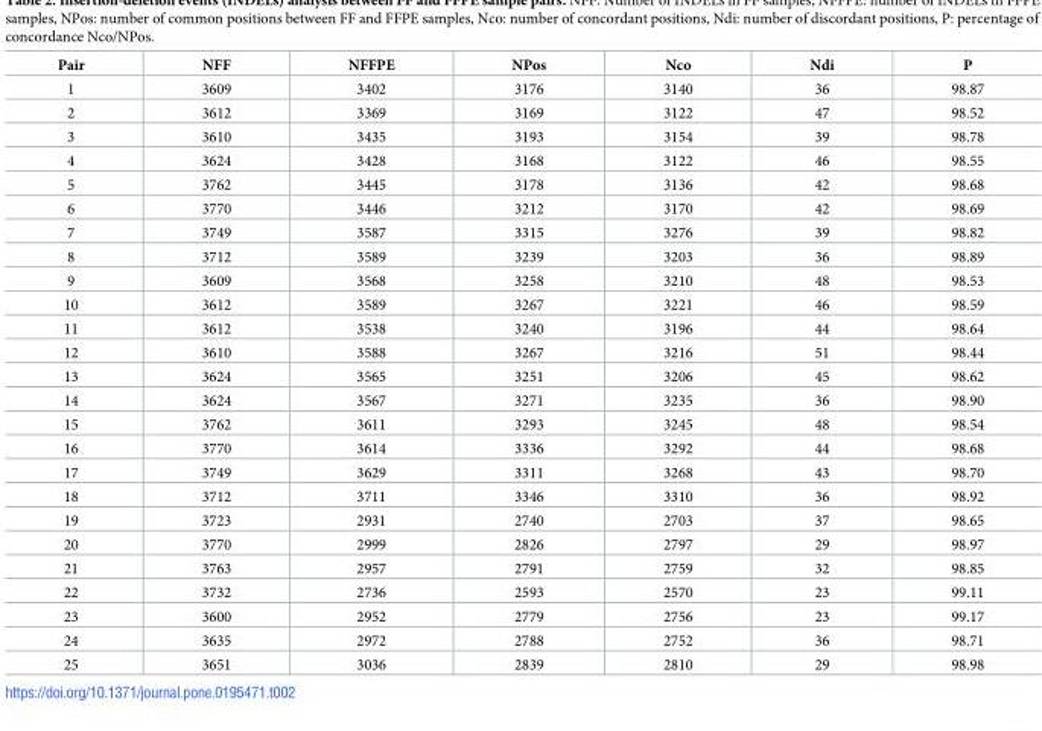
<table><thead><tr><td>Pair</td><td>NFF</td><td>NFFPE</td><td>NPos</td><td>Nco</td><td>Ndi</td><td>P</td></tr></thead><tbody><tr><td>1</td><td>3609</td><td>3402</td><td>3176</td><td>3140</td><td>36</td><td>98.87</td></tr><tr><td>2</td><td>3612</td><td>3369</td><td>3169</td><td>3122</td><td>47</td><td>98.52</td></tr><tr><td>3</td><td>3610</td><td>3435</td><td>3193</td><td>3154</td><td>39</td><td>98.78</td></tr><tr><td>4</td><td>3624</td><td>3428</td><td>3168</td><td>3122</td><td>46</td><td>98.55</td></tr><tr><td>5</td><td>3762</td><td>3445</td><td>3178</td><td>3136</td><td>42</td><td>98.68</td></tr><tr><td>6</td><td>3770</td><td>3446</td><td>3212</td><td>3170</td><td>42</td><td>98.69</td></tr><tr><td>7</td><td>3749</td><td>3587</td><td>3315</td><td>3276</td><td>39</td><td>98.82</td></tr><tr><td>8</td><td>3712</td><td>3589</td><td>3239</td><td>3203</td><td>36</td><td>98.89</td></tr><tr><td>9</td><td>3609</td><td>3568</td><td>3258</td><td>3210</td><td>48</td><td>98.53</td></tr><tr><td>10</td><td>3612</td><td>3589</td><td>3267</td><td>3221</td><td>46</td><td>98.59</td></tr><tr><td>11</td><td>3612</td><td>3538</td><td>3240</td><td>3196</td><td>44</td><td>98.64</td></tr><tr><td>12</td><td>3610</td><td>3588</td><td>3267</td><td>3216</td><td>51</td><td>98.44</td></tr><tr><td>13</td><td>3624</td><td>3565</td><td>3251</td><td>3206</td><td>45</td><td>98.62</td></tr><tr><td>14</td><td>3624</td><td>3567</td><td>3271</td><td>3235</td><td>36</td><td>98.90</td></tr><tr><td>15</td><td>3762</td><td>3611</td><td>3293</td><td>3245</td><td>48</td><td>98.54</td></tr><tr><td>16</td><td>3770</td><td>3614</td><td>3336</td><td>3292</td><td>44</td><td>98.68</td></tr><tr><td>17</td><td>3749</td><td>3629</td><td>3311</td><td>3268</td><td>43</td><td>98.70</td></tr><tr><td>18</td><td>3712</td><td>3711</td><td>3346</td><td>3310</td><td>36</td><td>98.92</td></tr><tr><td>19</td><td>3723</td><td>2931</td><td>2740</td><td>2703</td><td>37</td><td>98.65</td></tr><tr><td>20</td><td>3770</td><td>2999</td><td>2826</td><td>2797</td><td>29</td><td>98.97</td></tr><tr><td>21</td><td>3763</td><td>2957</td><td>2791</td><td>2759</td><td>32</td><td>98.85</td></tr><tr><td>22</td><td>3732</td><td>2736</td><td>2593</td><td>2570</td><td>23</td><td>99.11</td></tr><tr><td>23</td><td>3600</td><td>2952</td><td>2779</td><td>2756</td><td>23</td><td>99.17</td></tr><tr><td>24</td><td>3635</td><td>2972</td><td>2788</td><td>2752</td><td>36</td><td>98.71</td></tr><tr><td>25</td><td>3651</td><td>3036</td><td>2839</td><td>2810</td><td>29</td><td>98.98</td></tr></tbody></table>